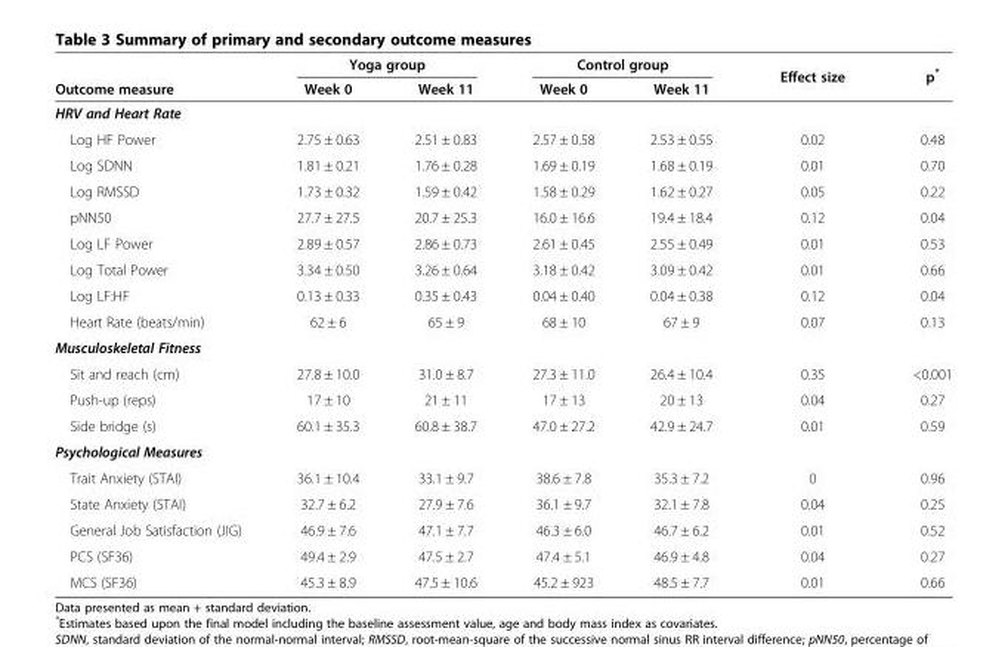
<table><thead><tr><td rowspan="2">Outcome measure</td><td colspan="2">Yoga group</td><td colspan="2">Control group</td><td rowspan="2">Effect size</td><td rowspan="2">p*</td></tr><tr><td>Week 0</td><td>Week 11</td><td>Week 0</td><td>Week 11</td></tr></thead><tbody><tr><td colspan="7">HRV and Heart Rate</td></tr><tr><td>Log HF Power</td><td>2.75 ± 0.63</td><td>2.51 ± 0.83</td><td>2.57 ± 0.58</td><td>2.53 ± 0.55</td><td>0.02</td><td>0.48</td></tr><tr><td>Log SDNN</td><td>1.81 ± 0.21</td><td>1.76 ± 0.28</td><td>1.69 ± 0.19</td><td>1.68 ± 0.19</td><td>0.01</td><td>0.70</td></tr><tr><td>Log RMSSD</td><td>1.73 ± 0.32</td><td>1.59 ± 0.42</td><td>1.58 ± 0.29</td><td>1.62 ± 0.27</td><td>0.05</td><td>0.22</td></tr><tr><td>pNN50</td><td>27.7 ± 27.5</td><td>20.7 ± 25.3</td><td>16.0 ± 16.6</td><td>19.4 ± 18.4</td><td>0.12</td><td>0.04</td></tr><tr><td>Log LF Power</td><td>2.89 ± 0.57</td><td>2.86 ± 0.73</td><td>2.61 ± 0.45</td><td>2.55 ± 0.49</td><td>0.01</td><td>0.53</td></tr><tr><td>Log Total Power</td><td>3.34 ± 0.50</td><td>3.26 ± 0.64</td><td>3.18 ± 0.42</td><td>3.09 ± 0.42</td><td>0.01</td><td>0.66</td></tr><tr><td>Log LF:HF</td><td>0.13 ± 0.33</td><td>0.35 ± 0.43</td><td>0.04 ± 0.40</td><td>0.04 ± 0.38</td><td>0.12</td><td>0.04</td></tr><tr><td>Heart Rate (beats/min)</td><td>62 ± 6</td><td>65 ± 9</td><td>68 ± 10</td><td>67 ± 9</td><td>0.07</td><td>0.13</td></tr><tr><td colspan="7">Musculoskeletal Fitness</td></tr><tr><td>Sit and reach (cm)</td><td>27.8 ± 10.0</td><td>31.0 ± 8.7</td><td>27.3 ± 11.0</td><td>26.4 ± 10.4</td><td>0.35</td><td>&lt;0.001</td></tr><tr><td>Push-up (reps)</td><td>17 ± 10</td><td>21 ± 11</td><td>17 ± 13</td><td>20 ± 13</td><td>0.04</td><td>0.27</td></tr><tr><td>Side bridge (s)</td><td>60.1 ± 35.3</td><td>60.8 ± 38.7</td><td>47.0 ± 27.2</td><td>42.9 ± 24.7</td><td>0.01</td><td>0.59</td></tr><tr><td colspan="7">Psychological Measures</td></tr><tr><td>Trait Anxiety (STAI)</td><td>36.1 ± 10.4</td><td>33.1 ± 9.7</td><td>38.6 ± 7.8</td><td>35.3 ± 7.2</td><td>0</td><td>0.96</td></tr><tr><td>State Anxiety (STAI)</td><td>32.7 ± 6.2</td><td>27.9 ± 7.6</td><td>36.1 ± 9.7</td><td>32.1 ± 7.8</td><td>0.04</td><td>0.25</td></tr><tr><td>General Job Satisfaction (JIG)</td><td>46.9 ± 7.6</td><td>47.1 ± 7.7</td><td>46.3 ± 6.0</td><td>46.7 ± 6.2</td><td>0.01</td><td>0.52</td></tr><tr><td>PCS (SF36)</td><td>49.4 ± 2.9</td><td>47.5 ± 2.7</td><td>47.4 ± 5.1</td><td>46.9 ± 4.8</td><td>0.04</td><td>0.27</td></tr><tr><td>MCS (SF36)</td><td>45.3 ± 8.9</td><td>47.5 ± 10.6</td><td>45.2 ± 923</td><td>48.5 ± 7.7</td><td>0.01</td><td>0.66</td></tr></tbody></table>